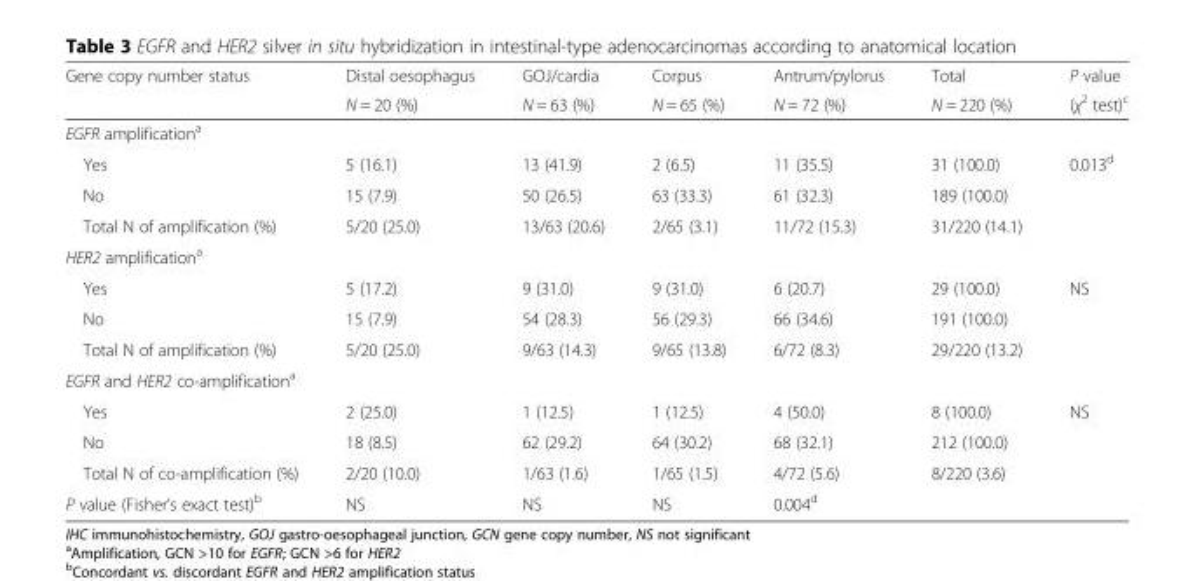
<table><thead><tr><td rowspan="2">Gene copy number status</td><td rowspan="2">Distal oesophagus N = 20 (%)</td><td rowspan="2">GOJ/cardia N = 63 (%)</td><td rowspan="2">Corpus N = 65 (%)</td><td rowspan="2">Antrum/pylorus N = 72 (%)</td><td rowspan="2">Total N = 220 (%)</td><td rowspan="2">P value (χ<sup>2</sup> test)<sup>c</sup></td></tr><tr></tr></thead><tbody><tr><td colspan="7">EGFR amplification<sup>a</sup></td></tr><tr><td>Yes</td><td>5 (16.1)</td><td>13 (41.9)</td><td>2 (6.5)</td><td>11 (35.5)</td><td>31 (100.0)</td><td>0.013<sup>d</sup></td></tr><tr><td>No</td><td>15 (7.9)</td><td>50 (26.5)</td><td>63 (33.3)</td><td>61 (32.3)</td><td>189 (100.0)</td><td></td></tr><tr><td>Total N of amplification (%)</td><td>5/20 (25.0)</td><td>13/63 (20.6)</td><td>2/65 (3.1)</td><td>11/72 (15.3)</td><td>31/220 (14.1)</td><td></td></tr><tr><td colspan="7">HER2 amplification<sup>a</sup></td></tr><tr><td>Yes</td><td>5 (17.2)</td><td>9 (31.0)</td><td>9 (31.0)</td><td>6 (20.7)</td><td>29 (100.0)</td><td>NS</td></tr><tr><td>No</td><td>15 (7.9)</td><td>54 (28.3)</td><td>56 (29.3)</td><td>66 (34.6)</td><td>191 (100.0)</td><td></td></tr><tr><td>Total N of amplification (%)</td><td>5/20 (25.0)</td><td>9/63 (14.3)</td><td>9/65 (13.8)</td><td>6/72 (8.3)</td><td>29/220 (13.2)</td><td></td></tr><tr><td colspan="7">EGFR and HER2 co-amplification<sup>a</sup></td></tr><tr><td>Yes</td><td>2 (25.0)</td><td>1 (12.5)</td><td>1 (12.5)</td><td>4 (50.0)</td><td>8 (100.0)</td><td>NS</td></tr><tr><td>No</td><td>18 (8.5)</td><td>62 (29.2)</td><td>64 (30.2)</td><td>68 (32.1)</td><td>212 (100.0)</td><td></td></tr><tr><td>Total N of co-amplification (%)</td><td>2/20 (10.0)</td><td>1/63 (1.6)</td><td>1/65 (1.5)</td><td>4/72 (5.6)</td><td>8/220 (3.6)</td><td></td></tr><tr><td>P value (Fisher’s exact test)<sup>b</sup></td><td>NS</td><td>NS</td><td>NS</td><td>0.004<sup>d</sup></td><td></td><td></td></tr></tbody></table>